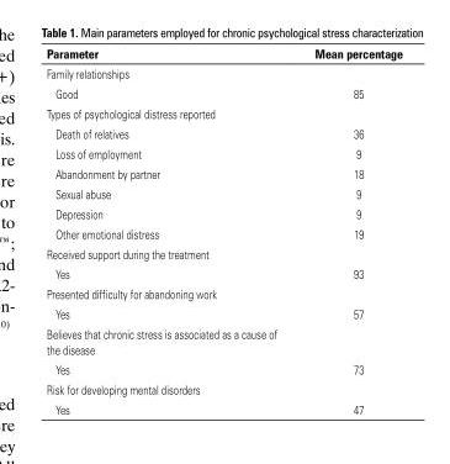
<table><thead><tr><td>Parameter</td><td>Mean percentage</td></tr></thead><tbody><tr><td colspan="2">Family relationships</td></tr><tr><td>Good</td><td>85</td></tr><tr><td colspan="2">Types of psychological distress reported</td></tr><tr><td>Death of relatives</td><td>36</td></tr><tr><td>Loss of employment</td><td>9</td></tr><tr><td>Abandonment by partner</td><td>18</td></tr><tr><td>Sexual abuse</td><td>9</td></tr><tr><td>Depression</td><td>9</td></tr><tr><td>Other emotional distress</td><td>19</td></tr><tr><td colspan="2">Received support during the treatment</td></tr><tr><td>Yes</td><td>93</td></tr><tr><td colspan="2">Presented difficulty for abandoning work</td></tr><tr><td>Yes</td><td>57</td></tr><tr><td colspan="2">Believes that chronic stress is associated as a cause of the disease</td></tr><tr><td>Yes</td><td>73</td></tr><tr><td colspan="2">Risk for developing mental disorders</td></tr><tr><td>Yes</td><td>47</td></tr></tbody></table>